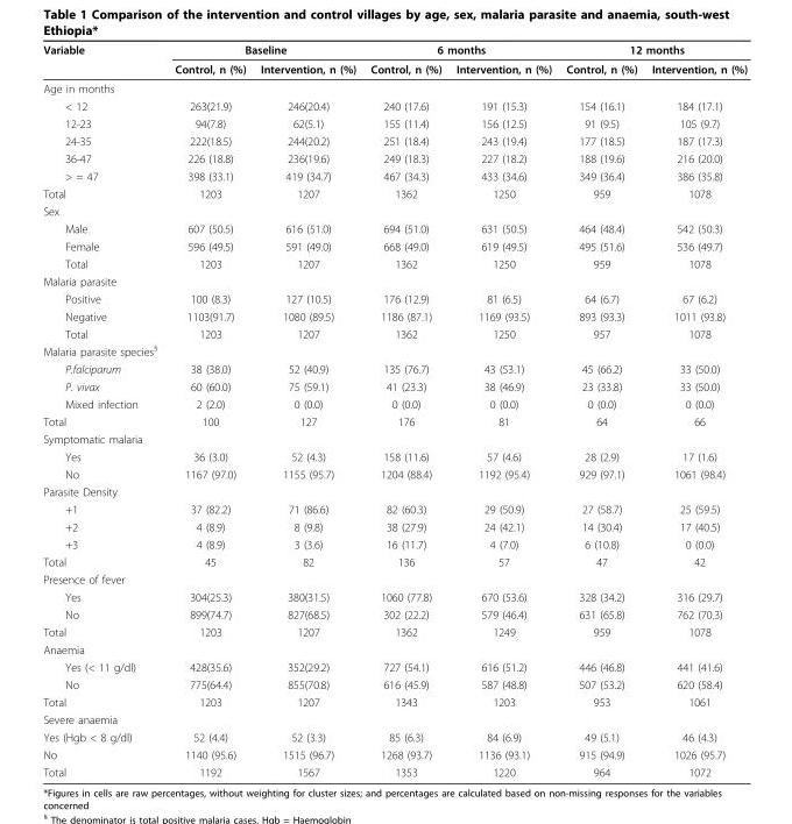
<table><thead><tr><td rowspan="2">Variable</td><td colspan="2">Baseline</td><td colspan="2">6 months</td><td colspan="2">12 months</td></tr><tr><td>Control, n (%)</td><td>Intervention, n (%)</td><td>Control, n (%)</td><td>Intervention, n (%)</td><td>Control, n (%)</td><td>Intervention, n (%)</td></tr></thead><tbody><tr><td colspan="7">Age in months</td></tr><tr><td>&lt; 12</td><td>263(21.9)</td><td>246(20.4)</td><td>240 (17.6)</td><td>191 (15.3)</td><td>154 (16.1)</td><td>184 (17.1)</td></tr><tr><td>12-23</td><td>94(7.8)</td><td>62(5.1)</td><td>155 (11.4)</td><td>156 (12.5)</td><td>91 (9.5)</td><td>105 (9.7)</td></tr><tr><td>24-35</td><td>222(18.5)</td><td>244(20.2)</td><td>251 (18.4)</td><td>243 (19.4)</td><td>177 (18.5)</td><td>187 (17.3)</td></tr><tr><td>36-47</td><td>226 (18.8)</td><td>236(19.6)</td><td>249 (18.3)</td><td>227 (18.2)</td><td>188 (19.6)</td><td>216 (20.0)</td></tr><tr><td>&gt; = 47</td><td>398 (33.1)</td><td>419 (34.7)</td><td>467 (34.3)</td><td>433 (34.6)</td><td>349 (36.4)</td><td>386 (35.8)</td></tr><tr><td>Total</td><td>1203</td><td>1207</td><td>1362</td><td>1250</td><td>959</td><td>1078</td></tr><tr><td colspan="7">Sex</td></tr><tr><td>Male</td><td>607 (50.5)</td><td>616 (51.0)</td><td>694 (51.0)</td><td>631 (50.5)</td><td>464 (48.4)</td><td>542 (50.3)</td></tr><tr><td>Female</td><td>596 (49.5)</td><td>591 (49.0)</td><td>668 (49.0)</td><td>619 (49.5)</td><td>495 (51.6)</td><td>536 (49.7)</td></tr><tr><td>Total</td><td>1203</td><td>1207</td><td>1362</td><td>1250</td><td>959</td><td>1078</td></tr><tr><td colspan="7">Malaria parasite</td></tr><tr><td>Positive</td><td>100 (8.3)</td><td>127 (10.5)</td><td>176 (12.9)</td><td>81 (6.5)</td><td>64 (6.7)</td><td>67 (6.2)</td></tr><tr><td>Negative</td><td>1103(91.7)</td><td>1080 (89.5)</td><td>1186 (87.1)</td><td>1169 (93.5)</td><td>893 (93.3)</td><td>1011 (93.8)</td></tr><tr><td>Total</td><td>1203</td><td>1207</td><td>1362</td><td>1250</td><td>957</td><td>1078</td></tr><tr><td colspan="7">Malaria parasite species<sup>§</sup></td></tr><tr><td>P.falciparum</td><td>38 (38.0)</td><td>52 (40.9)</td><td>135 (76.7)</td><td>43 (53.1)</td><td>45 (66.2)</td><td>33 (50.0)</td></tr><tr><td>P. vivax</td><td>60 (60.0)</td><td>75 (59.1)</td><td>41 (23.3)</td><td>38 (46.9)</td><td>23 (33.8)</td><td>33 (50.0)</td></tr><tr><td>Mixed infection</td><td>2 (2.0)</td><td>0 (0.0)</td><td>0 (0.0)</td><td>0 (0.0)</td><td>0 (0.0)</td><td>0 (0.0)</td></tr><tr><td>Total</td><td>100</td><td>127</td><td>176</td><td>81</td><td>64</td><td>66</td></tr><tr><td colspan="7">Symptomatic malaria</td></tr><tr><td>Yes</td><td>36 (3.0)</td><td>52 (4.3)</td><td>158 (11.6)</td><td>57 (4.6)</td><td>28 (2.9)</td><td>17 (1.6)</td></tr><tr><td>No</td><td>1167 (97.0)</td><td>1155 (95.7)</td><td>1204 (88.4)</td><td>1192 (95.4)</td><td>929 (97.1)</td><td>1061 (98.4)</td></tr><tr><td colspan="7">Parasite Density</td></tr><tr><td>+1</td><td>37 (82.2)</td><td>71 (86.6)</td><td>82 (60.3)</td><td>29 (50.9)</td><td>27 (58.7)</td><td>25 (59.5)</td></tr><tr><td>+2</td><td>4 (8.9)</td><td>8 (9.8)</td><td>38 (27.9)</td><td>24 (42.1)</td><td>14 (30.4)</td><td>17 (40.5)</td></tr><tr><td>+3</td><td>4 (8.9)</td><td>3 (3.6)</td><td>16 (11.7)</td><td>4 (7.0)</td><td>6 (10.8)</td><td>0 (0.0)</td></tr><tr><td>Total</td><td>45</td><td>82</td><td>136</td><td>57</td><td>47</td><td>42</td></tr><tr><td colspan="7">Presence of fever</td></tr><tr><td>Yes</td><td>304(25.3)</td><td>380(31.5)</td><td>1060 (77.8)</td><td>670 (53.6)</td><td>328 (34.2)</td><td>316 (29.7)</td></tr><tr><td>No</td><td>899(74.7)</td><td>827(68.5)</td><td>302 (22.2)</td><td>579 (46.4)</td><td>631 (65.8)</td><td>762 (70.3)</td></tr><tr><td>Total</td><td>1203</td><td>1207</td><td>1362</td><td>1249</td><td>959</td><td>1078</td></tr><tr><td colspan="7">Anaemia</td></tr><tr><td>Yes (&lt; 11 g/dl)</td><td>428(35.6)</td><td>352(29.2)</td><td>727 (54.1)</td><td>616 (51.2)</td><td>446 (46.8)</td><td>441 (41.6)</td></tr><tr><td>No</td><td>775(64.4)</td><td>855(70.8)</td><td>616 (45.9)</td><td>587 (48.8)</td><td>507 (53.2)</td><td>620 (58.4)</td></tr><tr><td>Total</td><td>1203</td><td>1207</td><td>1343</td><td>1203</td><td>953</td><td>1061</td></tr><tr><td colspan="7">Severe anaemia</td></tr><tr><td>Yes (Hgb &lt; 8 g/dl)</td><td>52 (4.4)</td><td>52 (3.3)</td><td>85 (6.3)</td><td>84 (6.9)</td><td>49 (5.1)</td><td>46 (4.3)</td></tr><tr><td>No</td><td>1140 (95.6)</td><td>1515 (96.7)</td><td>1268 (93.7)</td><td>1136 (93.1)</td><td>915 (94.9)</td><td>1026 (95.7)</td></tr><tr><td>Total</td><td>1192</td><td>1567</td><td>1353</td><td>1220</td><td>964</td><td>1072</td></tr></tbody></table>